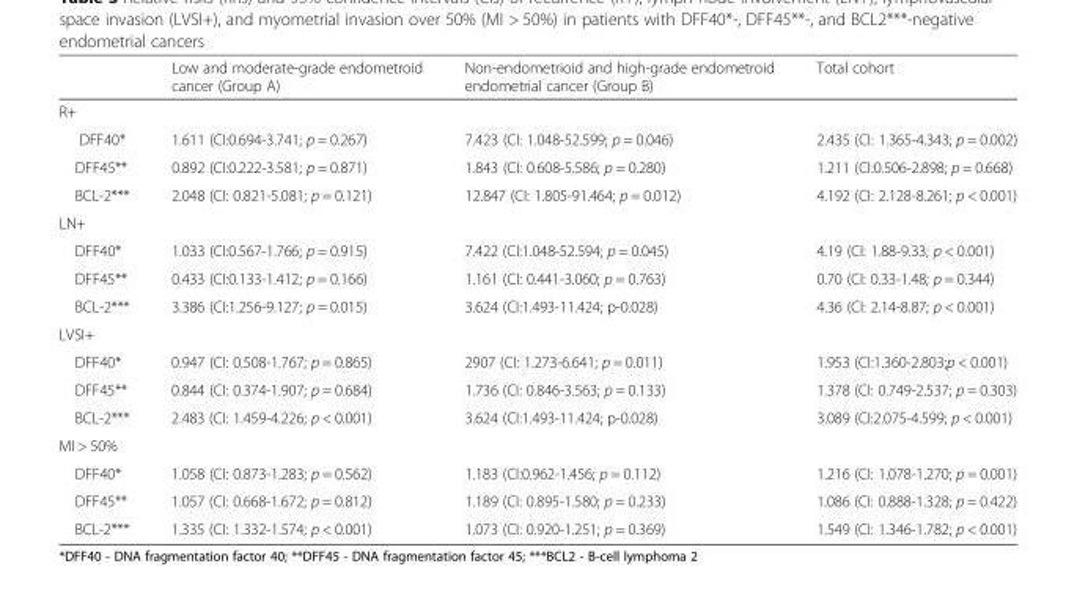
<table><thead><tr><td></td><td>Low and moderate-grade endometroid cancer (Group A)</td><td>Non-endometrioid and high-grade endometroid endometrial cancer (Group B)</td><td>Total cohort</td></tr></thead><tbody><tr><td colspan="4">R+</td></tr><tr><td>DFF40*</td><td>1.611 (CI:0.694-3.741; p = 0.267)</td><td>7.423 (CI: 1.048-52.599; p = 0.046)</td><td>2.435 (CI: 1.365-4.343; p = 0.002)</td></tr><tr><td>DFF45**</td><td>0.892 (CI:0.222-3.581; p = 0.871)</td><td>1.843 (CI: 0.608-5.586; p = 0.280)</td><td>1.211 (CI:0.506-2.898; p = 0.668)</td></tr><tr><td>BCL-2***</td><td>2.048 (CI: 0.821-5.081; p = 0.121)</td><td>12.847 (CI: 1.805-91.464; p = 0.012)</td><td>4.192 (CI: 2.128-8.261; p &lt; 0.001)</td></tr><tr><td colspan="4">LN+</td></tr><tr><td>DFF40*</td><td>1.033 (CI:0.567-1.766; p = 0.915)</td><td>7.422 (CI:1.048-52.594; p = 0.045)</td><td>4.19 (CI: 1.88-9.33; p &lt; 0.001)</td></tr><tr><td>DFF45**</td><td>0.433 (CI:0.133-1.412; p = 0.166)</td><td>1.161 (CI: 0.441-3.060; p = 0.763)</td><td>0.70 (CI: 0.33-1.48; p = 0.344)</td></tr><tr><td>BCL-2***</td><td>3.386 (CI:1.256-9.127; p = 0.015)</td><td>3.624 (CI:1.493-11.424; p-0.028)</td><td>4.36 (CI: 2.14-8.87; p &lt; 0.001)</td></tr><tr><td colspan="4">LVSI+</td></tr><tr><td>DFF40*</td><td>0.947 (CI: 0.508-1.767; p = 0.865)</td><td>2907 (CI: 1.273-6.641; p = 0.011)</td><td>1.953 (CI:1.360-2.803;p &lt; 0.001)</td></tr><tr><td>DFF45**</td><td>0.844 (CI: 0.374-1.907; p = 0.684)</td><td>1.736 (CI: 0.846-3.563; p = 0.133)</td><td>1.378 (CI: 0.749-2.537; p = 0.303)</td></tr><tr><td>BCL-2***</td><td>2.483 (CI: 1.459-4.226; p &lt; 0.001)</td><td>3.624 (CI:1.493-11.424; p-0.028)</td><td>3.089 (CI:2.075-4.599; p &lt; 0.001)</td></tr><tr><td colspan="4">MI &gt; 50%</td></tr><tr><td>DFF40*</td><td>1.058 (CI: 0.873-1.283; p = 0.562)</td><td>1.183 (CI:0.962-1.456; p = 0.112)</td><td>1.216 (CI: 1.078-1.270; p = 0.001)</td></tr><tr><td>DFF45**</td><td>1.057 (CI: 0.668-1.672; p = 0.812)</td><td>1.189 (CI: 0.895-1.580; p = 0.233)</td><td>1.086 (CI: 0.888-1.328; p = 0.422)</td></tr><tr><td>BCL-2***</td><td>1.335 (CI: 1.332-1.574; p &lt; 0.001)</td><td>1.073 (CI: 0.920-1.251; p = 0.369)</td><td>1.549 (CI: 1.346-1.782; p &lt; 0.001)</td></tr></tbody></table>